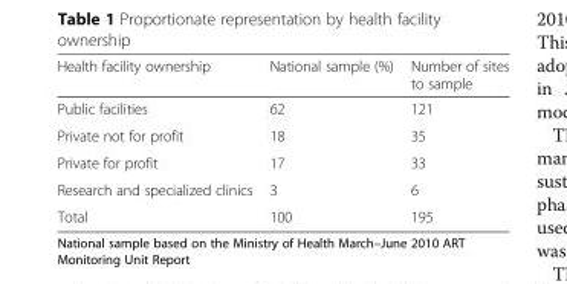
<table><thead><tr><td>Health facility ownership</td><td>National sample (%)</td><td>Number of sites to sample</td></tr></thead><tbody><tr><td>Public facilities</td><td>62</td><td>121</td></tr><tr><td>Private not for profit</td><td>18</td><td>35</td></tr><tr><td>Private for profit</td><td>17</td><td>33</td></tr><tr><td>Research and specialized clinics</td><td>3</td><td>6</td></tr><tr><td>Total</td><td>100</td><td>195</td></tr></tbody></table>